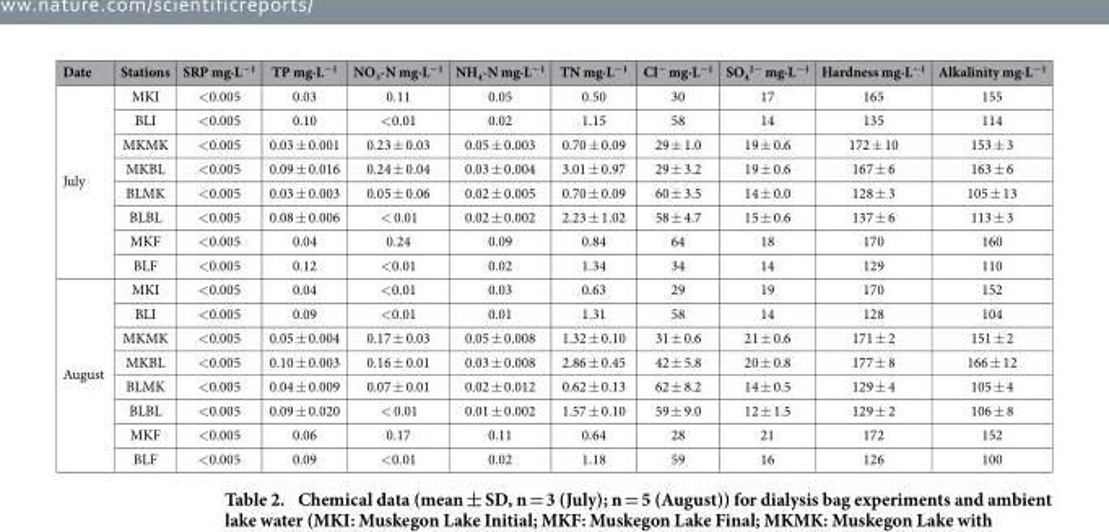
<table><thead><tr><td>Date</td><td>Stations</td><td>SRP mg·L<sup>−1</sup></td><td>TP mg·L<sup>−1</sup></td><td>NO<sub>3</sub>-N mg·L<sup>−1</sup></td><td>NH<sub>4</sub>-N mg·L<sup>−1</sup></td><td>TN mg·L<sup>−1</sup></td><td>Cl<sup>−</sup> mg·L<sup>−1</sup></td><td>SO<sub>4</sub> <sup>2−</sup> mg·L<sup>−1</sup></td><td>Hardness mg·L<sup>−1</sup></td><td>Alkalinity mg·L<sup>−1</sup></td></tr></thead><tbody><tr><td rowspan="8">July</td><td>MKI</td><td>&lt; 0.005</td><td>0.03</td><td>0.11</td><td>0.05</td><td>0.50</td><td>30</td><td>17</td><td>165</td><td>155</td></tr><tr><td>BLI</td><td>&lt; 0.005</td><td>0.10</td><td>&lt; 0.01</td><td>0.02</td><td>1.15</td><td>58</td><td>14</td><td>135</td><td>114</td></tr><tr><td>MKMK</td><td>&lt; 0.005</td><td>0.03 ± 0.001</td><td>0.23 ± 0.03</td><td>0.05 ± 0.003</td><td>0.70 ± 0.09</td><td>29 ± 1.0</td><td>19 ± 0.6</td><td>172 ± 10</td><td>153 ± 3</td></tr><tr><td>MKBL</td><td>&lt; 0.005</td><td>0.09 ± 0.016</td><td>0.24 ± 0.04</td><td>0.03 ± 0.004</td><td>3.01 ± 0.97</td><td>29 ± 3.2</td><td>19 ± 0.6</td><td>167 ± 6</td><td>163 ± 6</td></tr><tr><td>BLMK</td><td>&lt; 0.005</td><td>0.03 ± 0.003</td><td>0.05 ± 0.06</td><td>0.02 ± 0.005</td><td>0.70 ± 0.09</td><td>60 ± 3.5</td><td>14 ± 0.0</td><td>128 ± 3</td><td>105 ± 13</td></tr><tr><td>BLBL</td><td>&lt; 0.005</td><td>0.08 ± 0.006</td><td>&lt; 0.01</td><td>0.02 ± 0.002</td><td>2.23 ± 1.02</td><td>58 ± 4.7</td><td>15 ± 0.6</td><td>137 ± 6</td><td>113 ± 3</td></tr><tr><td>MKF</td><td>&lt; 0.005</td><td>0.04</td><td>0.24</td><td>0.09</td><td>0.84</td><td>64</td><td>18</td><td>170</td><td>160</td></tr><tr><td>BLF</td><td>&lt; 0.005</td><td>0.12</td><td>&lt; 0.01</td><td>0.02</td><td>1.34</td><td>34</td><td>14</td><td>129</td><td>110</td></tr><tr><td rowspan="8">August</td><td>MKI</td><td>&lt; 0.005</td><td>0.04</td><td>&lt; 0.01</td><td>0.03</td><td>0.63</td><td>29</td><td>19</td><td>170</td><td>152</td></tr><tr><td>BLI</td><td>&lt; 0.005</td><td>0.09</td><td>&lt; 0.01</td><td>0.01</td><td>1.31</td><td>58</td><td>14</td><td>128</td><td>104</td></tr><tr><td>MKMK</td><td>&lt; 0.005</td><td>0.05 ± 0.004</td><td>0.17 ± 0.03</td><td>0.05 ± 0.008</td><td>1.32 ± 0.10</td><td>31 ± 0.6</td><td>21 ± 0.6</td><td>171 ± 2</td><td>151 ± 2</td></tr><tr><td>MKBL</td><td>&lt; 0.005</td><td>0.10 ± 0.003</td><td>0.16 ± 0.01</td><td>0.03 ± 0.008</td><td>2.86 ± 0.45</td><td>42 ± 5.8</td><td>20 ± 0.8</td><td>177 ± 8</td><td>166 ± 12</td></tr><tr><td>BLMK</td><td>&lt; 0.005</td><td>0.04 ± 0.009</td><td>0.07 ± 0.01</td><td>0.02 ± 0.012</td><td>0.62 ± 0.13</td><td>62 ± 8.2</td><td>14 ± 0.5</td><td>129 ± 4</td><td>105 ± 4</td></tr><tr><td>BLBL</td><td>&lt; 0.005</td><td>0.09 ± 0.020</td><td>&lt; 0.01</td><td>0.01 ± 0.002</td><td>1.57 ± 0.10</td><td>59 ± 9.0</td><td>12 ± 1.5</td><td>129 ± 2</td><td>106 ± 8</td></tr><tr><td>MKF</td><td>&lt; 0.005</td><td>0.06</td><td>0.17</td><td>0.11</td><td>0.64</td><td>28</td><td>21</td><td>172</td><td>152</td></tr><tr><td>BLF</td><td>&lt; 0.005</td><td>0.09</td><td>&lt; 0.01</td><td>0.02</td><td>1.18</td><td>59</td><td>16</td><td>126</td><td>100</td></tr></tbody></table>